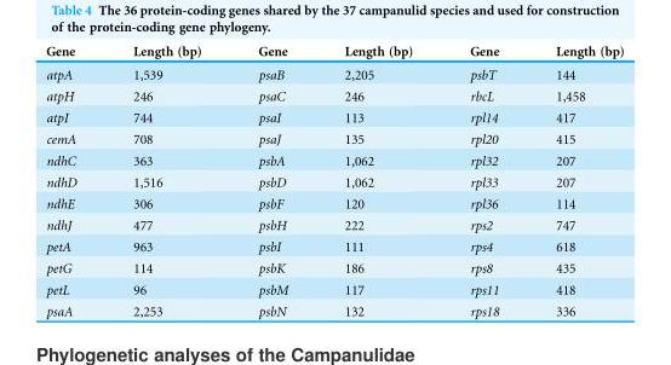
<table><thead><tr><td>Gene</td><td>Length (bp)</td><td>Gene</td><td>Length (bp)</td><td>Gene</td><td>Length (bp)</td></tr></thead><tbody><tr><td>atpA</td><td>1,539</td><td>psaB</td><td>2,205</td><td>psbT</td><td>144</td></tr><tr><td>atpH</td><td>246</td><td>psaC</td><td>246</td><td>rbcL</td><td>1,458</td></tr><tr><td>atpI</td><td>744</td><td>psaI</td><td>113</td><td>rpl14</td><td>417</td></tr><tr><td>cemA</td><td>708</td><td>psaJ</td><td>135</td><td>rpl20</td><td>415</td></tr><tr><td>ndhC</td><td>363</td><td>psbA</td><td>1,062</td><td>rpl32</td><td>207</td></tr><tr><td>ndhD</td><td>1,516</td><td>psbD</td><td>1,062</td><td>rpl33</td><td>207</td></tr><tr><td>ndhE</td><td>306</td><td>psbF</td><td>120</td><td>rpl36</td><td>114</td></tr><tr><td>ndhJ</td><td>477</td><td>psbH</td><td>222</td><td>rps2</td><td>747</td></tr><tr><td>petA</td><td>963</td><td>psbI</td><td>111</td><td>rps4</td><td>618</td></tr><tr><td>petG</td><td>114</td><td>psbK</td><td>186</td><td>rps8</td><td>435</td></tr><tr><td>petL</td><td>96</td><td>psbM</td><td>117</td><td>rps11</td><td>418</td></tr><tr><td>psaA</td><td>2,253</td><td>psbN</td><td>132</td><td>rps18</td><td>336</td></tr></tbody></table>